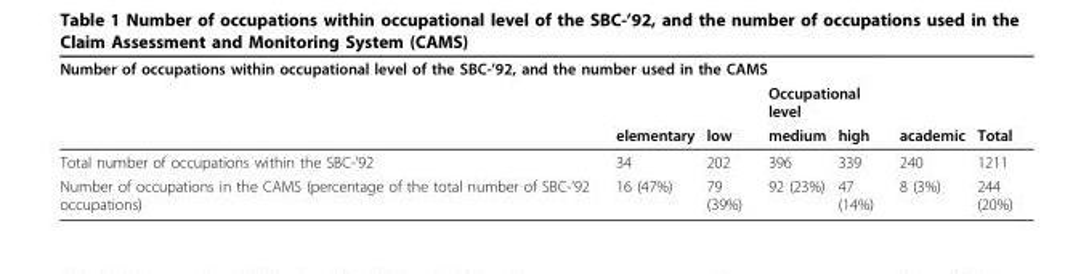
<table><thead><tr><td colspan="7">Number of occupations within occupational level of the SBC-’92, and the number used in the CAMS</td></tr><tr><td rowspan="2"></td><td rowspan="2">elementary</td><td rowspan="2">low</td><td colspan="2">Occupational level</td><td rowspan="2">academic</td><td rowspan="2">Total</td></tr><tr><td>medium</td><td>high</td></tr></thead><tbody><tr><td>Total number of occupations within the SBC-’92</td><td>34</td><td>202</td><td>396</td><td>339</td><td>240</td><td>1211</td></tr><tr><td>Number of occupations in the CAMS (percentage of the total number of SBC-’92 occupations)</td><td>16 (47%)</td><td>79 (39%)</td><td>92 (23%)</td><td>47 (14%)</td><td>8 (3%)</td><td>244 (20%)</td></tr></tbody></table>